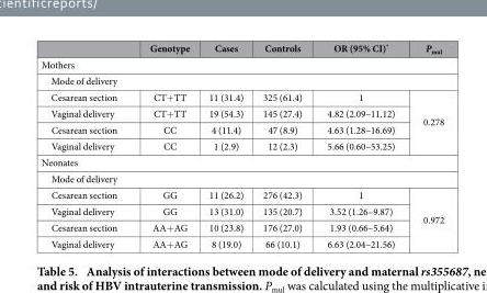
<table><thead><tr><td></td><td>Genotype</td><td>Cases</td><td>Controls</td><td>OR (95% CI)*</td><td>P<sub>mul</sub></td></tr></thead><tbody><tr><td colspan="6">Mothers</td></tr><tr><td colspan="6">Mode of delivery</td></tr><tr><td>Cesarean section</td><td>CT+ TT</td><td>11 (31.4)</td><td>325 (61.4)</td><td>1</td><td rowspan="4">0.278</td></tr><tr><td>Vaginal delivery</td><td>CT+ TT</td><td>19 (54.3)</td><td>145 (27.4)</td><td>4.82 (2.09–11.12)</td></tr><tr><td>Cesarean section</td><td>CC</td><td>4 (11.4)</td><td>47 (8.9)</td><td>4.63 (1.28–16.69)</td></tr><tr><td>Vaginal delivery</td><td>CC</td><td>1 (2.9)</td><td>12 (2.3)</td><td>5.66 (0.60–53.25)</td></tr><tr><td colspan="6">Neonates</td></tr><tr><td colspan="6">Mode of delivery</td></tr><tr><td>Cesarean section</td><td>GG</td><td>11 (26.2)</td><td>276 (42.3)</td><td>1</td><td rowspan="4">0.972</td></tr><tr><td>Vaginal delivery</td><td>GG</td><td>13 (31.0)</td><td>135 (20.7)</td><td>3.52 (1.26–9.87)</td></tr><tr><td>Cesarean section</td><td>AA+ AG</td><td>10 (23.8)</td><td>176 (27.0)</td><td>1.93 (0.66–5.64)</td></tr><tr><td>Vaginal delivery</td><td>AA+ AG</td><td>8 (19.0)</td><td>66 (10.1)</td><td>6.63 (2.04–21.56)</td></tr></tbody></table>